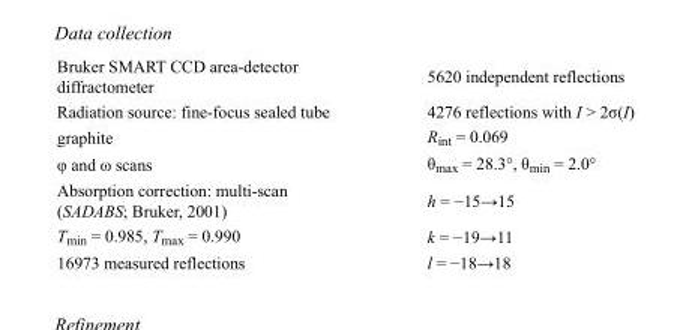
<table><tbody><tr><td>Bruker SMART CCD area-detector diffractometer</td><td>5620 independent reflections</td></tr><tr><td>Radiation source: fine-focus sealed tube</td><td>4276 reflections with I &gt; 2σ(I)</td></tr><tr><td>graphite</td><td>R<sub>int</sub> = 0.069</td></tr><tr><td>φ and ω scans</td><td>θ<sub>max</sub> = 28.3°, θ<sub>min</sub> = 2.0°</td></tr><tr><td>Absorption correction: multi-scan (SADABS; Bruker, 2001)</td><td>h = −15→15</td></tr><tr><td>T<sub>min</sub> = 0.985, T<sub>max</sub> = 0.990</td><td>k = −19→11</td></tr><tr><td>16973 measured reflections</td><td>l = −18→18</td></tr></tbody></table>